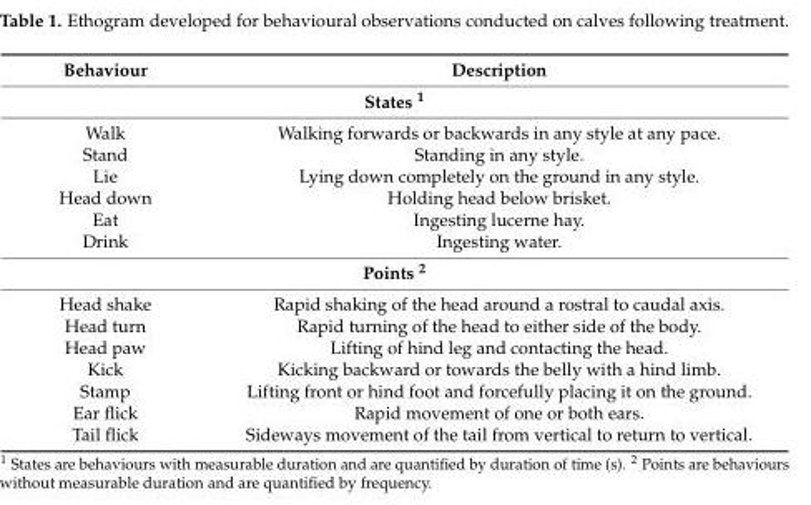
<table><thead><tr><td>Behaviour</td><td>Description</td></tr></thead><tbody><tr><td colspan="2">States <sup>1</sup></td></tr><tr><td>Walk</td><td>Walking forwards or backwards in any style at any pace.</td></tr><tr><td>Stand</td><td>Standing in any style.</td></tr><tr><td>Lie</td><td>Lying down completely on the ground in any style.</td></tr><tr><td>Head down</td><td>Holding head below brisket.</td></tr><tr><td>Eat</td><td>Ingesting lucerne hay.</td></tr><tr><td>Drink</td><td>Ingesting water.</td></tr><tr><td colspan="2">Points <sup>2</sup></td></tr><tr><td>Head shake</td><td>Rapid shaking of the head around a rostral to caudal axis.</td></tr><tr><td>Head turn</td><td>Rapid turning of the head to either side of the body.</td></tr><tr><td>Head paw</td><td>Lifting of hind leg and contacting the head.</td></tr><tr><td>Kick</td><td>Kicking backward or towards the belly with a hind limb.</td></tr><tr><td>Stamp</td><td>Lifting front or hind foot and forcefully placing it on the ground.</td></tr><tr><td>Ear flick</td><td>Rapid movement of one or both ears.</td></tr><tr><td>Tail flick</td><td>Sideways movement of the tail from vertical to return to vertical.</td></tr></tbody></table>